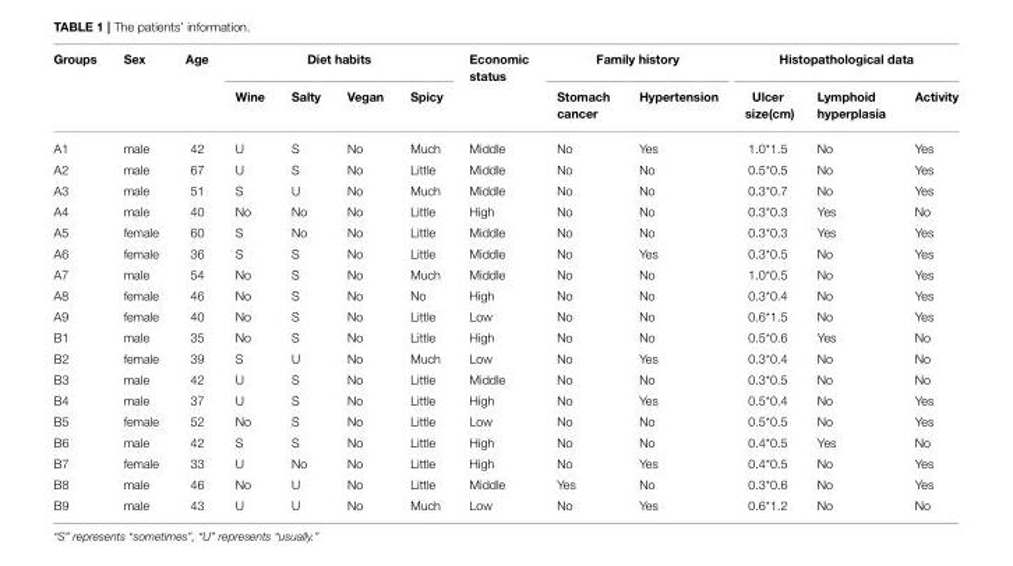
<table><thead><tr><td rowspan="2">Groups</td><td rowspan="2">Sex</td><td rowspan="2">Age</td><td colspan="4">Diet habits</td><td rowspan="2">Economic status</td><td colspan="2">Family history</td><td colspan="3">Histopathological data</td></tr><tr><td>Wine</td><td>Salty</td><td>Vegan</td><td>Spicy</td><td>Stomach cancer</td><td>Hypertension</td><td>Ulcer size(cm)</td><td>Lymphoid hyperplasia</td><td>Activity</td></tr></thead><tbody><tr><td>A1</td><td>male</td><td>42</td><td>U</td><td>S</td><td>No</td><td>Much</td><td>Middle</td><td>No</td><td>Yes</td><td>1.0*1.5</td><td>No</td><td>Yes</td></tr><tr><td>A2</td><td>male</td><td>67</td><td>U</td><td>S</td><td>No</td><td>Little</td><td>Middle</td><td>No</td><td>No</td><td>0.5*0.5</td><td>No</td><td>Yes</td></tr><tr><td>A3</td><td>male</td><td>51</td><td>S</td><td>U</td><td>No</td><td>Much</td><td>Middle</td><td>No</td><td>No</td><td>0.3*0.7</td><td>No</td><td>Yes</td></tr><tr><td>A4</td><td>male</td><td>40</td><td>No</td><td>No</td><td>No</td><td>Little</td><td>High</td><td>No</td><td>No</td><td>0.3*0.3</td><td>Yes</td><td>No</td></tr><tr><td>A5</td><td>female</td><td>60</td><td>S</td><td>No</td><td>No</td><td>Little</td><td>Middle</td><td>No</td><td>No</td><td>0.3*0.3</td><td>Yes</td><td>Yes</td></tr><tr><td>A6</td><td>female</td><td>36</td><td>S</td><td>S</td><td>No</td><td>Little</td><td>Middle</td><td>No</td><td>Yes</td><td>0.3*0.5</td><td>No</td><td>Yes</td></tr><tr><td>A7</td><td>male</td><td>54</td><td>No</td><td>S</td><td>No</td><td>Much</td><td>Middle</td><td>No</td><td>No</td><td>1.0*0.5</td><td>No</td><td>Yes</td></tr><tr><td>A8</td><td>female</td><td>46</td><td>No</td><td>S</td><td>No</td><td>No</td><td>High</td><td>No</td><td>No</td><td>0.3*0.4</td><td>No</td><td>Yes</td></tr><tr><td>A9</td><td>female</td><td>40</td><td>No</td><td>S</td><td>No</td><td>Little</td><td>Low</td><td>No</td><td>No</td><td>0.6*1.5</td><td>No</td><td>Yes</td></tr><tr><td>B1</td><td>male</td><td>35</td><td>No</td><td>S</td><td>No</td><td>Little</td><td>High</td><td>No</td><td>No</td><td>0.5*0.6</td><td>Yes</td><td>No</td></tr><tr><td>B2</td><td>female</td><td>39</td><td>S</td><td>U</td><td>No</td><td>Much</td><td>Low</td><td>No</td><td>Yes</td><td>0.3*0.4</td><td>No</td><td>No</td></tr><tr><td>B3</td><td>male</td><td>42</td><td>U</td><td>S</td><td>No</td><td>Little</td><td>Middle</td><td>No</td><td>No</td><td>0.3*0.5</td><td>No</td><td>No</td></tr><tr><td>B4</td><td>male</td><td>37</td><td>U</td><td>S</td><td>No</td><td>Little</td><td>High</td><td>No</td><td>Yes</td><td>0.5*0.4</td><td>No</td><td>Yes</td></tr><tr><td>B5</td><td>female</td><td>52</td><td>No</td><td>S</td><td>No</td><td>Little</td><td>Low</td><td>No</td><td>No</td><td>0.5*0.5</td><td>No</td><td>Yes</td></tr><tr><td>B6</td><td>male</td><td>42</td><td>S</td><td>S</td><td>No</td><td>Little</td><td>High</td><td>No</td><td>No</td><td>0.4*0.5</td><td>Yes</td><td>No</td></tr><tr><td>B7</td><td>female</td><td>33</td><td>U</td><td>No</td><td>No</td><td>Little</td><td>High</td><td>No</td><td>Yes</td><td>0.4*0.5</td><td>No</td><td>Yes</td></tr><tr><td>B8</td><td>male</td><td>46</td><td>No</td><td>U</td><td>No</td><td>Little</td><td>Middle</td><td>Yes</td><td>No</td><td>0.3*0.6</td><td>No</td><td>Yes</td></tr><tr><td>B9</td><td>male</td><td>43</td><td>U</td><td>U</td><td>No</td><td>Much</td><td>Low</td><td>No</td><td>Yes</td><td>0.6*1.2</td><td>No</td><td>No</td></tr></tbody></table>